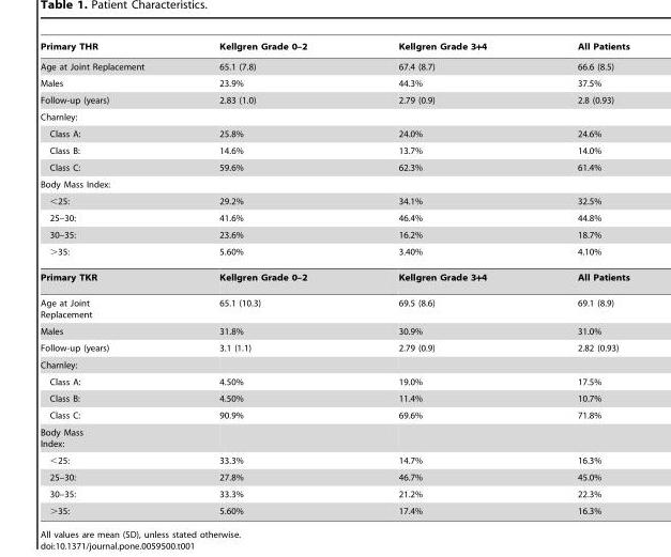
<table><thead><tr><td>Primary THR</td><td>Kellgren Grade 0–2</td><td>Kellgren Grade 3+4</td><td>All Patients</td></tr></thead><tbody><tr><td>Age at Joint Replacement</td><td>65.1 (7.8)</td><td>67.4 (8.7)</td><td>66.6 (8.5)</td></tr><tr><td>Males</td><td>23.9%</td><td>44.3%</td><td>37.5%</td></tr><tr><td>Follow-up (years)</td><td>2.83 (1.0)</td><td>2.79 (0.9)</td><td>2.8 (0.93)</td></tr><tr><td colspan="4">Charnley:</td></tr><tr><td>Class A:</td><td>25.8%</td><td>24.0%</td><td>24.6%</td></tr><tr><td>Class B:</td><td>14.6%</td><td>13.7%</td><td>14.0%</td></tr><tr><td>Class C:</td><td>59.6%</td><td>62.3%</td><td>61.4%</td></tr><tr><td colspan="4">Body Mass Index:</td></tr><tr><td>&lt;25:</td><td>29.2%</td><td>34.1%</td><td>32.5%</td></tr><tr><td>25–30:</td><td>41.6%</td><td>46.4%</td><td>44.8%</td></tr><tr><td>30–35:</td><td>23.6%</td><td>16.2%</td><td>18.7%</td></tr><tr><td>&gt;35:</td><td>5.60%</td><td>3.40%</td><td>4.10%</td></tr><tr><td>Primary TKR</td><td>Kellgren Grade 0–2</td><td>Kellgren Grade 3+4</td><td>All Patients</td></tr><tr><td>Age at Joint Replacement</td><td>65.1 (10.3)</td><td>69.5 (8.6)</td><td>69.1 (8.9)</td></tr><tr><td>Males</td><td>31.8%</td><td>30.9%</td><td>31.0%</td></tr><tr><td>Follow-up (years)</td><td>3.1 (1.1)</td><td>2.79 (0.9)</td><td>2.82 (0.93)</td></tr><tr><td colspan="4">Charnley:</td></tr><tr><td>Class A:</td><td>4.50%</td><td>19.0%</td><td>17.5%</td></tr><tr><td>Class B:</td><td>4.50%</td><td>11.4%</td><td>10.7%</td></tr><tr><td>Class C:</td><td>90.9%</td><td>69.6%</td><td>71.8%</td></tr><tr><td colspan="4">Body Mass Index:</td></tr><tr><td>&lt;25:</td><td>33.3%</td><td>14.7%</td><td>16.3%</td></tr><tr><td>25–30:</td><td>27.8%</td><td>46.7%</td><td>45.0%</td></tr><tr><td>30–35:</td><td>33.3%</td><td>21.2%</td><td>22.3%</td></tr><tr><td>&gt;35:</td><td>5.60%</td><td>17.4%</td><td>16.3%</td></tr></tbody></table>